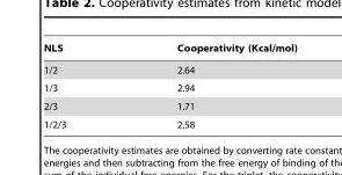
<table><thead><tr><td>NLS</td><td>Cooperativity (Kcal/mol)</td></tr></thead><tbody><tr><td>1/2</td><td>2.64</td></tr><tr><td>1/3</td><td>2.94</td></tr><tr><td>2/3</td><td>1.71</td></tr><tr><td>1/2/3</td><td>2.58</td></tr></tbody></table>